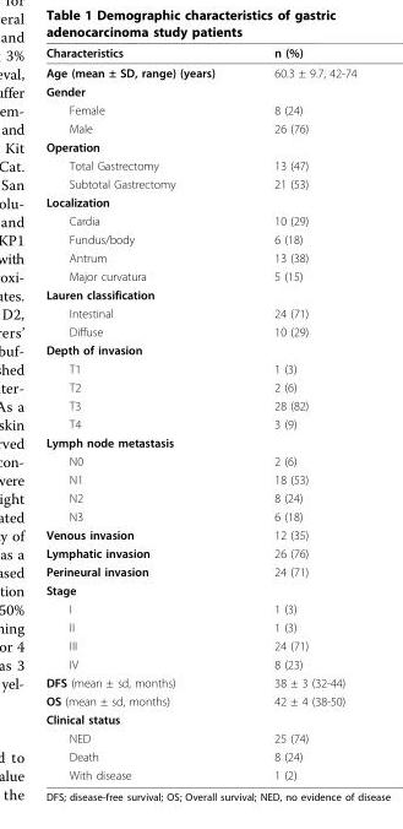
<table><thead><tr><td>Characteristics</td><td>n (%)</td></tr></thead><tbody><tr><td>Age (mean ± SD, range) (years)</td><td>60.3 ± 9.7, 42-74</td></tr><tr><td colspan="2">Gender</td></tr><tr><td>Female</td><td>8 (24)</td></tr><tr><td>Male</td><td>26 (76)</td></tr><tr><td colspan="2">Operation</td></tr><tr><td>Total Gastrectomy</td><td>13 (47)</td></tr><tr><td>Subtotal Gastrectomy</td><td>21 (53)</td></tr><tr><td colspan="2">Localization</td></tr><tr><td>Cardia</td><td>10 (29)</td></tr><tr><td>Fundus/body</td><td>6 (18)</td></tr><tr><td>Antrum</td><td>13 (38)</td></tr><tr><td>Major curvatura</td><td>5 (15)</td></tr><tr><td colspan="2">Lauren classification</td></tr><tr><td>Intestinal</td><td>24 (71)</td></tr><tr><td>Diffuse</td><td>10 (29)</td></tr><tr><td colspan="2">Depth of invasion</td></tr><tr><td>T1</td><td>1 (3)</td></tr><tr><td>T2</td><td>2 (6)</td></tr><tr><td>T3</td><td>28 (82)</td></tr><tr><td>T4</td><td>3 (9)</td></tr><tr><td colspan="2">Lymph node metastasis</td></tr><tr><td>N0</td><td>2 (6)</td></tr><tr><td>N1</td><td>18 (53)</td></tr><tr><td>N2</td><td>8 (24)</td></tr><tr><td>N3</td><td>6 (18)</td></tr><tr><td>Venous invasion</td><td>12 (35)</td></tr><tr><td>Lymphatic invasion</td><td>26 (76)</td></tr><tr><td>Perineural invasion</td><td>24 (71)</td></tr><tr><td colspan="2">Stage</td></tr><tr><td>I</td><td>1 (3)</td></tr><tr><td>II</td><td>1 (3)</td></tr><tr><td>III</td><td>24 (71)</td></tr><tr><td>IV</td><td>8 (23)</td></tr><tr><td>DFS (mean ± sd, months)</td><td>38 ± 3 (32-44)</td></tr><tr><td>OS (mean ± sd, months)</td><td>42 ± 4 (38-50)</td></tr><tr><td colspan="2">Clinical status</td></tr><tr><td>NED</td><td>25 (74)</td></tr><tr><td>Death</td><td>8 (24)</td></tr><tr><td>With disease</td><td>1 (2)</td></tr></tbody></table>